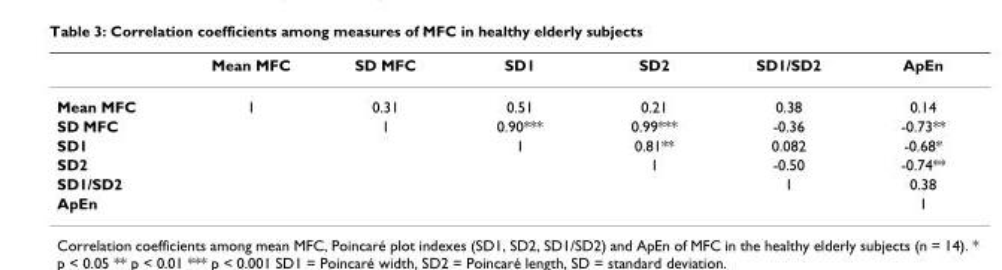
<table><thead><tr><td></td><td>Mean MFC</td><td>SD MFC</td><td>SD1</td><td>SD2</td><td>SD1/SD2</td><td>ApEn</td></tr></thead><tbody><tr><td>Mean MFC</td><td>1</td><td>0.31</td><td>0.51</td><td>0.21</td><td>0.38</td><td>0.14</td></tr><tr><td>SD MFC</td><td></td><td>1</td><td>0.90***</td><td>0.99***</td><td>-0.36</td><td>-0.73**</td></tr><tr><td>SD1</td><td></td><td></td><td>1</td><td>0.81**</td><td>0.082</td><td>-0.68*</td></tr><tr><td>SD2</td><td></td><td></td><td></td><td>1</td><td>-0.50</td><td>-0.74**</td></tr><tr><td>SD1/SD2</td><td></td><td></td><td></td><td></td><td>1</td><td>0.38</td></tr><tr><td>ApEn</td><td></td><td></td><td></td><td></td><td></td><td>1</td></tr></tbody></table>